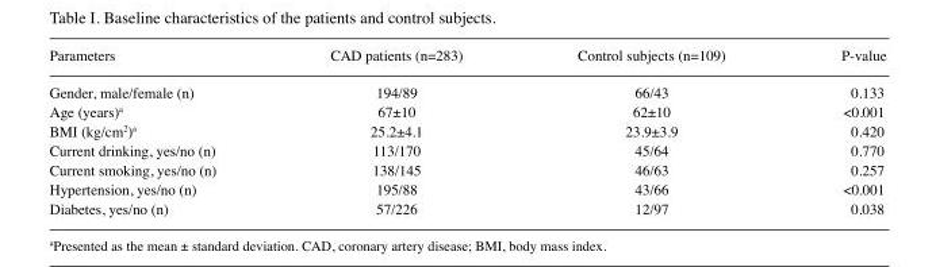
<table><thead><tr><td>Parameters</td><td>CAD patients (n=283)</td><td>Control subjects (n=109)</td><td>P-value</td></tr></thead><tbody><tr><td>Gender, male/female (n)</td><td>194/89</td><td>66/43</td><td>0.133</td></tr><tr><td>Age (years)<sup>a</sup></td><td>67±10</td><td>62±10</td><td>&lt;0.001</td></tr><tr><td>BMI (kg/cm<sup>2</sup>)<sup>a</sup></td><td>25.2±4.1</td><td>23.9±3.9</td><td>0.420</td></tr><tr><td>Current drinking, yes/no (n)</td><td>113/170</td><td>45/64</td><td>0.770</td></tr><tr><td>Current smoking, yes/no (n)</td><td>138/145</td><td>46/63</td><td>0.257</td></tr><tr><td>Hypertension, yes/no (n)</td><td>195/88</td><td>43/66</td><td>&lt;0.001</td></tr><tr><td>Diabetes, yes/no (n)</td><td>57/226</td><td>12/97</td><td>0.038</td></tr></tbody></table>